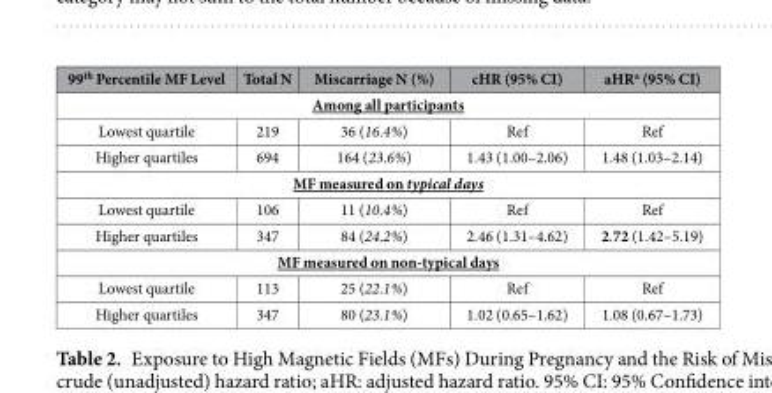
<table><thead><tr><td>99<sup>th</sup> Percentile MF Level</td><td>Total N</td><td>Miscarriage N (%)</td><td>cHR (95% CI)</td><td>aHR<sup>a</sup> (95% CI)</td></tr></thead><tbody><tr><td colspan="5">Among all participants</td></tr><tr><td>Lowest quartile</td><td>219</td><td>36 (16.4%)</td><td>Ref</td><td>Ref</td></tr><tr><td>Higher quartiles</td><td>694</td><td>164 (23.6%)</td><td>1.43 (1.00–2.06)</td><td>1.48 (1.03–2.14)</td></tr><tr><td colspan="5">MF measured on typical days</td></tr><tr><td>Lowest quartile</td><td>106</td><td>11 (10.4%)</td><td>Ref</td><td>Ref</td></tr><tr><td>Higher quartiles</td><td>347</td><td>84 (24.2%)</td><td>2.46 (1.31–4.62)</td><td>2.72 (1.42–5.19)</td></tr><tr><td colspan="5">MF measured on non-typical days</td></tr><tr><td>Lowest quartile</td><td>113</td><td>25 (22.1%)</td><td>Ref</td><td>Ref</td></tr><tr><td>Higher quartiles</td><td>347</td><td>80 (23.1%)</td><td>1.02 (0.65–1.62)</td><td>1.08 (0.67–1.73)</td></tr></tbody></table>